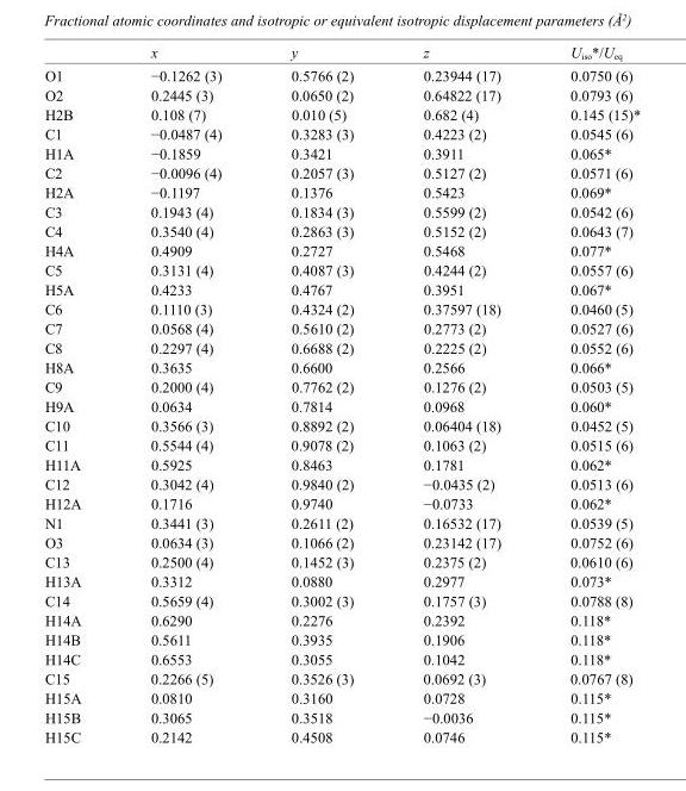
<table><thead><tr><td></td><td>x</td><td>y</td><td>z</td><td>U<sub>iso</sub>*/U<sub>eq</sub></td></tr></thead><tbody><tr><td>O1</td><td>−0.1262 (3)</td><td>0.5766 (2)</td><td>0.23944 (17)</td><td>0.0750 (6)</td></tr><tr><td>O2</td><td>0.2445 (3)</td><td>0.0650 (2)</td><td>0.64822 (17)</td><td>0.0793 (6)</td></tr><tr><td>H2B</td><td>0.108 (7)</td><td>0.010 (5)</td><td>0.682 (4)</td><td>0.145 (15)*</td></tr><tr><td>C1</td><td>−0.0487 (4)</td><td>0.3283 (3)</td><td>0.4223 (2)</td><td>0.0545 (6)</td></tr><tr><td>H1A</td><td>−0.1859</td><td>0.3421</td><td>0.3911</td><td>0.065*</td></tr><tr><td>C2</td><td>−0.0096 (4)</td><td>0.2057 (3)</td><td>0.5127 (2)</td><td>0.0571 (6)</td></tr><tr><td>H2A</td><td>−0.1197</td><td>0.1376</td><td>0.5423</td><td>0.069*</td></tr><tr><td>C3</td><td>0.1943 (4)</td><td>0.1834 (3)</td><td>0.5599 (2)</td><td>0.0542 (6)</td></tr><tr><td>C4</td><td>0.3540 (4)</td><td>0.2863 (3)</td><td>0.5152 (2)</td><td>0.0643 (7)</td></tr><tr><td>H4A</td><td>0.4909</td><td>0.2727</td><td>0.5468</td><td>0.077*</td></tr><tr><td>C5</td><td>0.3131 (4)</td><td>0.4087 (3)</td><td>0.4244 (2)</td><td>0.0557 (6)</td></tr><tr><td>H5A</td><td>0.4233</td><td>0.4767</td><td>0.3951</td><td>0.067*</td></tr><tr><td>C6</td><td>0.1110 (3)</td><td>0.4324 (2)</td><td>0.37597 (18)</td><td>0.0460 (5)</td></tr><tr><td>C7</td><td>0.0568 (4)</td><td>0.5610 (2)</td><td>0.2773 (2)</td><td>0.0527 (6)</td></tr><tr><td>C8</td><td>0.2297 (4)</td><td>0.6688 (2)</td><td>0.2225 (2)</td><td>0.0552 (6)</td></tr><tr><td>H8A</td><td>0.3635</td><td>0.6600</td><td>0.2566</td><td>0.066*</td></tr><tr><td>C9</td><td>0.2000 (4)</td><td>0.7762 (2)</td><td>0.1276 (2)</td><td>0.0503 (5)</td></tr><tr><td>H9A</td><td>0.0634</td><td>0.7814</td><td>0.0968</td><td>0.060*</td></tr><tr><td>C10</td><td>0.3566 (3)</td><td>0.8892 (2)</td><td>0.06404 (18)</td><td>0.0452 (5)</td></tr><tr><td>C11</td><td>0.5544 (4)</td><td>0.9078 (2)</td><td>0.1063 (2)</td><td>0.0515 (6)</td></tr><tr><td>H11A</td><td>0.5925</td><td>0.8463</td><td>0.1781</td><td>0.062*</td></tr><tr><td>C12</td><td>0.3042 (4)</td><td>0.9840 (2)</td><td>−0.0435 (2)</td><td>0.0513 (6)</td></tr><tr><td>H12A</td><td>0.1716</td><td>0.9740</td><td>−0.0733</td><td>0.062*</td></tr><tr><td>N1</td><td>0.3441 (3)</td><td>0.2611 (2)</td><td>0.16532 (17)</td><td>0.0539 (5)</td></tr><tr><td>O3</td><td>0.0634 (3)</td><td>0.1066 (2)</td><td>0.23142 (17)</td><td>0.0752 (6)</td></tr><tr><td>C13</td><td>0.2500 (4)</td><td>0.1452 (3)</td><td>0.2375 (2)</td><td>0.0610 (6)</td></tr><tr><td>H13A</td><td>0.3312</td><td>0.0880</td><td>0.2977</td><td>0.073*</td></tr><tr><td>C14</td><td>0.5659 (4)</td><td>0.3002 (3)</td><td>0.1757 (3)</td><td>0.0788 (8)</td></tr><tr><td>H14A</td><td>0.6290</td><td>0.2276</td><td>0.2392</td><td>0.118*</td></tr><tr><td>H14B</td><td>0.5611</td><td>0.3935</td><td>0.1906</td><td>0.118*</td></tr><tr><td>H14C</td><td>0.6553</td><td>0.3055</td><td>0.1042</td><td>0.118*</td></tr><tr><td>C15</td><td>0.2266 (5)</td><td>0.3526 (3)</td><td>0.0692 (3)</td><td>0.0767 (8)</td></tr><tr><td>H15A</td><td>0.0810</td><td>0.3160</td><td>0.0728</td><td>0.115*</td></tr><tr><td>H15B</td><td>0.3065</td><td>0.3518</td><td>−0.0036</td><td>0.115*</td></tr><tr><td>H15C</td><td>0.2142</td><td>0.4508</td><td>0.0746</td><td>0.115*</td></tr></tbody></table>